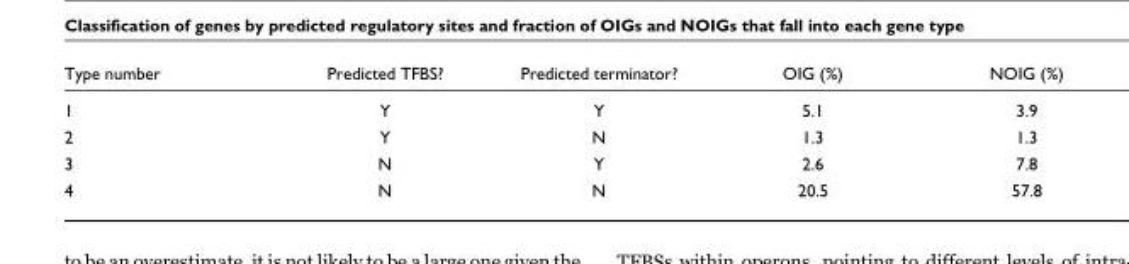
<table><thead><tr><td>Type number</td><td>Predicted TFBS?</td><td>Predicted terminator?</td><td>OIG (%)</td><td>NOIG (%)</td></tr></thead><tbody><tr><td>1</td><td>Y</td><td>Y</td><td>5.1</td><td>3.9</td></tr><tr><td>2</td><td>Y</td><td>N</td><td>1.3</td><td>1.3</td></tr><tr><td>3</td><td>N</td><td>Y</td><td>2.6</td><td>7.8</td></tr><tr><td>4</td><td>N</td><td>N</td><td>20.5</td><td>57.8</td></tr></tbody></table>